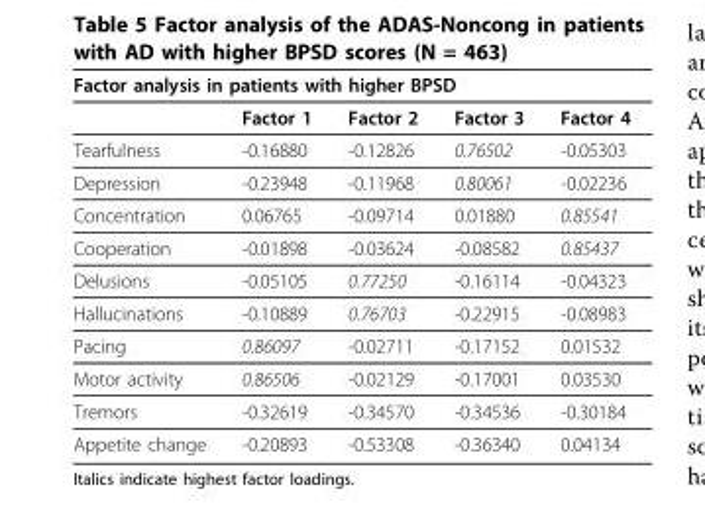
<table><thead><tr><td colspan="5">Factor analysis in patients with higher BPSD</td></tr><tr><td></td><td>Factor 1</td><td>Factor 2</td><td>Factor 3</td><td>Factor 4</td></tr></thead><tbody><tr><td>Tearfulness</td><td>-0.16880</td><td>-0.12826</td><td>0.76502</td><td>-0.05303</td></tr><tr><td>Depression</td><td>-0.23948</td><td>-0.11968</td><td>0.80061</td><td>-0.02236</td></tr><tr><td>Concentration</td><td>0.06765</td><td>-0.09714</td><td>0.01880</td><td>0.85541</td></tr><tr><td>Cooperation</td><td>-0.01898</td><td>-0.03624</td><td>-0.08582</td><td>0.85437</td></tr><tr><td>Delusions</td><td>-0.05105</td><td>0.77250</td><td>-0.16114</td><td>-0.04323</td></tr><tr><td>Hallucinations</td><td>-0.10889</td><td>0.76703</td><td>-0.22915</td><td>-0.08983</td></tr><tr><td>Pacing</td><td>0.86097</td><td>-0.02711</td><td>-0.17152</td><td>0.01532</td></tr><tr><td>Motor activity</td><td>0.86506</td><td>-0.02129</td><td>-0.17001</td><td>0.03530</td></tr><tr><td>Tremors</td><td>-0.32619</td><td>-0.34570</td><td>-0.34536</td><td>-0.30184</td></tr><tr><td>Appetite change</td><td>-0.20893</td><td>-0.53308</td><td>-0.36340</td><td>0.04134</td></tr></tbody></table>